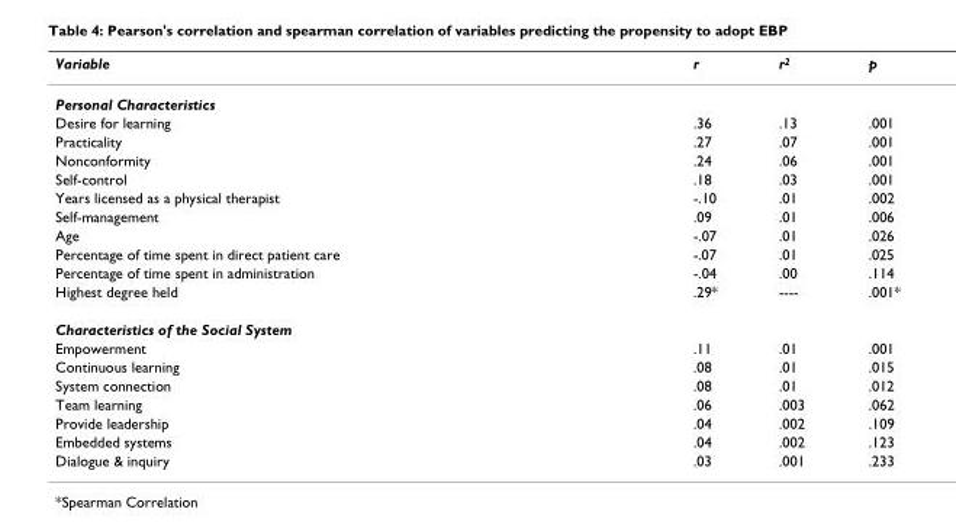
<table><thead><tr><td>Variable</td><td>r</td><td>r<sup>2</sup></td><td>p</td></tr></thead><tbody><tr><td colspan="4">Personal Characteristics</td></tr><tr><td>Desire for learning</td><td>.36</td><td>.13</td><td>.001</td></tr><tr><td>Practicality</td><td>.27</td><td>.07</td><td>.001</td></tr><tr><td>Nonconformity</td><td>.24</td><td>.06</td><td>.001</td></tr><tr><td>Self-control</td><td>.18</td><td>.03</td><td>.001</td></tr><tr><td>Years licensed as a physical therapist</td><td>-.10</td><td>.01</td><td>.002</td></tr><tr><td>Self-management</td><td>.09</td><td>.01</td><td>.006</td></tr><tr><td>Age</td><td>-.07</td><td>.01</td><td>.026</td></tr><tr><td>Percentage of time spent in direct patient care</td><td>-.07</td><td>.01</td><td>.025</td></tr><tr><td>Percentage of time spent in administration</td><td>-.04</td><td>.00</td><td>.114</td></tr><tr><td>Highest degree held</td><td>.29*</td><td>----</td><td>.001*</td></tr><tr><td colspan="4">Characteristics of the Social System</td></tr><tr><td>Empowerment</td><td>.11</td><td>.01</td><td>.001</td></tr><tr><td>Continuous learning</td><td>.08</td><td>.01</td><td>.015</td></tr><tr><td>System connection</td><td>.08</td><td>.01</td><td>.012</td></tr><tr><td>Team learning</td><td>.06</td><td>.003</td><td>.062</td></tr><tr><td>Provide leadership</td><td>.04</td><td>.002</td><td>.109</td></tr><tr><td>Embedded systems</td><td>.04</td><td>.002</td><td>.123</td></tr><tr><td>Dialogue &amp; inquiry</td><td>.03</td><td>.001</td><td>.233</td></tr></tbody></table>